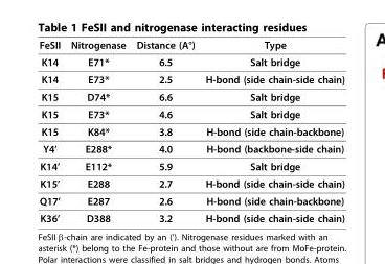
<table><thead><tr><td>FeSII</td><td>Nitrogenase</td><td>Distance (A°)</td><td>Type</td></tr></thead><tbody><tr><td>K14</td><td>E71*</td><td>6.5</td><td>Salt bridge</td></tr><tr><td>K14</td><td>E73*</td><td>2.5</td><td>H-bond (side chain-side chain)</td></tr><tr><td>K15</td><td>D74*</td><td>6.6</td><td>Salt bridge</td></tr><tr><td>K15</td><td>E73*</td><td>4.6</td><td>Salt bridge</td></tr><tr><td>K15</td><td>K84*</td><td>3.8</td><td>H-bond (side chain-backbone)</td></tr><tr><td>Y4’</td><td>E288*</td><td>4.0</td><td>H-bond (backbone-side chain)</td></tr><tr><td>K14’</td><td>E112*</td><td>5.9</td><td>Salt bridge</td></tr><tr><td>K15’</td><td>E288</td><td>2.7</td><td>H-bond (side chain-side chain)</td></tr><tr><td>Q17’</td><td>E287</td><td>2.6</td><td>H-bond (side chain-backbone)</td></tr><tr><td>K36’</td><td>D388</td><td>3.2</td><td>H-bond (side chain-side chain)</td></tr></tbody></table>